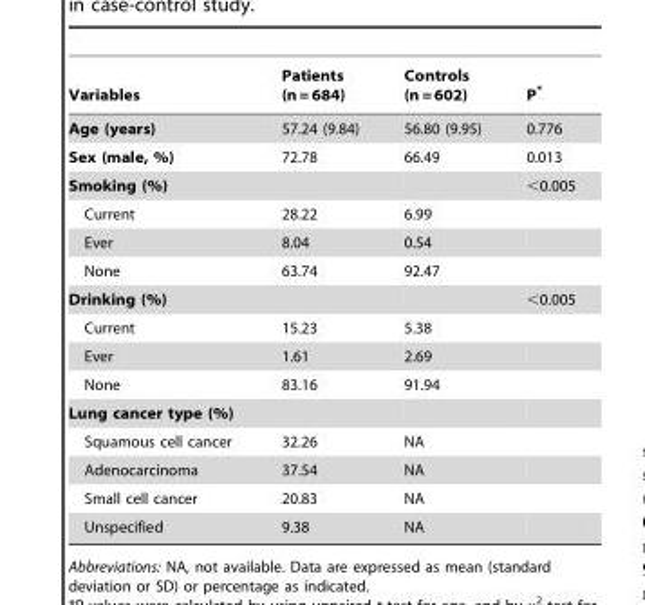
<table><thead><tr><td>Variables</td><td>Patients (n = 684)</td><td>Controls (n = 602)</td><td>P*</td></tr></thead><tbody><tr><td>Age (years)</td><td>57.24 (9.84)</td><td>56.80 (9.95)</td><td>0.776</td></tr><tr><td>Sex (male, %)</td><td>72.78</td><td>66.49</td><td>0.013</td></tr><tr><td>Smoking (%)</td><td></td><td></td><td>&lt;0.005</td></tr><tr><td>Current</td><td>28.22</td><td>6.99</td><td></td></tr><tr><td>Ever</td><td>8.04</td><td>0.54</td><td></td></tr><tr><td>None</td><td>63.74</td><td>92.47</td><td></td></tr><tr><td>Drinking (%)</td><td></td><td></td><td>&lt;0.005</td></tr><tr><td>Current</td><td>15.23</td><td>5.38</td><td></td></tr><tr><td>Ever</td><td>1.61</td><td>2.69</td><td></td></tr><tr><td>None</td><td>83.16</td><td>91.94</td><td></td></tr><tr><td colspan="4">Lung cancer type (%)</td></tr><tr><td>Squamous cell cancer</td><td>32.26</td><td>NA</td><td></td></tr><tr><td>Adenocarcinoma</td><td>37.54</td><td>NA</td><td></td></tr><tr><td>Small cell cancer</td><td>20.83</td><td>NA</td><td></td></tr><tr><td>Unspecified</td><td>9.38</td><td>NA</td><td></td></tr></tbody></table>